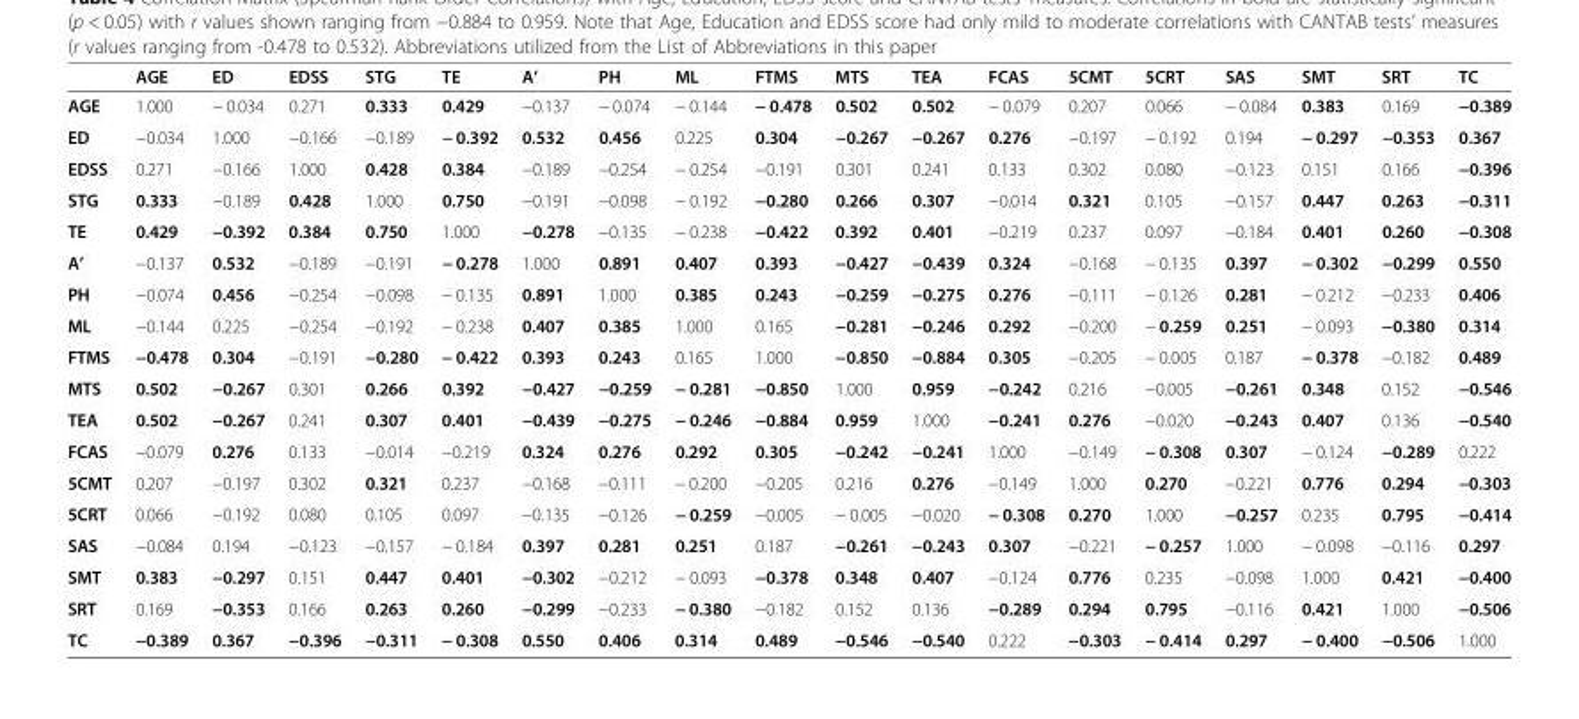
<table><thead><tr><td></td><td>AGE</td><td>ED</td><td>EDSS</td><td>STG</td><td>TE</td><td>A’</td><td>PH</td><td>ML</td><td>FTMS</td><td>MTS</td><td>TEA</td><td>FCAS</td><td>5CMT</td><td>5CRT</td><td>SAS</td><td>SMT</td><td>SRT</td><td>TC</td></tr></thead><tbody><tr><td>AGE</td><td>1.000</td><td>− 0.034</td><td>0.271</td><td>0.333</td><td>0.429</td><td>−0.137</td><td>− 0.074</td><td>− 0.144</td><td>− 0.478</td><td>0.502</td><td>0.502</td><td>− 0.079</td><td>0.207</td><td>0.066</td><td>− 0.084</td><td>0.383</td><td>0.169</td><td>−0.389</td></tr><tr><td>ED</td><td>−0.034</td><td>1.000</td><td>−0.166</td><td>−0.189</td><td>− 0.392</td><td>0.532</td><td>0.456</td><td>0.225</td><td>0.304</td><td>−0.267</td><td>−0.267</td><td>0.276</td><td>−0.197</td><td>− 0.192</td><td>0.194</td><td>− 0.297</td><td>−0.353</td><td>0.367</td></tr><tr><td>EDSS</td><td>0.271</td><td>−0.166</td><td>1.000</td><td>0.428</td><td>0.384</td><td>−0.189</td><td>−0.254</td><td>− 0.254</td><td>−0.191</td><td>0.301</td><td>0.241</td><td>0.133</td><td>0.302</td><td>0.080</td><td>−0.123</td><td>0.151</td><td>0.166</td><td>−0.396</td></tr><tr><td>STG</td><td>0.333</td><td>−0.189</td><td>0.428</td><td>1.000</td><td>0.750</td><td>−0.191</td><td>−0.098</td><td>− 0.192</td><td>−0.280</td><td>0.266</td><td>0.307</td><td>−0.014</td><td>0.321</td><td>0.105</td><td>−0.157</td><td>0.447</td><td>0.263</td><td>−0.311</td></tr><tr><td>TE</td><td>0.429</td><td>−0.392</td><td>0.384</td><td>0.750</td><td>1.000</td><td>−0.278</td><td>−0.135</td><td>− 0.238</td><td>−0.422</td><td>0.392</td><td>0.401</td><td>−0.219</td><td>0.237</td><td>0.097</td><td>−0.184</td><td>0.401</td><td>0.260</td><td>−0.308</td></tr><tr><td>A’</td><td>−0.137</td><td>0.532</td><td>−0.189</td><td>−0.191</td><td>− 0.278</td><td>1.000</td><td>0.891</td><td>0.407</td><td>0.393</td><td>−0.427</td><td>−0.439</td><td>0.324</td><td>−0.168</td><td>− 0.135</td><td>0.397</td><td>− 0.302</td><td>−0.299</td><td>0.550</td></tr><tr><td>PH</td><td>−0.074</td><td>0.456</td><td>−0.254</td><td>−0.098</td><td>− 0.135</td><td>0.891</td><td>1.000</td><td>0.385</td><td>0.243</td><td>−0.259</td><td>−0.275</td><td>0.276</td><td>−0.111</td><td>− 0.126</td><td>0.281</td><td>− 0.212</td><td>−0.233</td><td>0.406</td></tr><tr><td>ML</td><td>−0.144</td><td>0.225</td><td>−0.254</td><td>−0.192</td><td>− 0.238</td><td>0.407</td><td>0.385</td><td>1.000</td><td>0.165</td><td>−0.281</td><td>−0.246</td><td>0.292</td><td>−0.200</td><td>− 0.259</td><td>0.251</td><td>− 0.093</td><td>−0.380</td><td>0.314</td></tr><tr><td>FTMS</td><td>−0.478</td><td>0.304</td><td>−0.191</td><td>−0.280</td><td>− 0.422</td><td>0.393</td><td>0.243</td><td>0.165</td><td>1.000</td><td>−0.850</td><td>−0.884</td><td>0.305</td><td>−0.205</td><td>− 0.005</td><td>0.187</td><td>− 0.378</td><td>−0.182</td><td>0.489</td></tr><tr><td>MTS</td><td>0.502</td><td>−0.267</td><td>0.301</td><td>0.266</td><td>0.392</td><td>−0.427</td><td>−0.259</td><td>− 0.281</td><td>−0.850</td><td>1.000</td><td>0.959</td><td>−0.242</td><td>0.216</td><td>−0.005</td><td>−0.261</td><td>0.348</td><td>0.152</td><td>−0.546</td></tr><tr><td>TEA</td><td>0.502</td><td>−0.267</td><td>0.241</td><td>0.307</td><td>0.401</td><td>−0.439</td><td>−0.275</td><td>− 0.246</td><td>−0.884</td><td>0.959</td><td>1.000</td><td>−0.241</td><td>0.276</td><td>−0.020</td><td>−0.243</td><td>0.407</td><td>0.136</td><td>−0.540</td></tr><tr><td>FCAS</td><td>−0.079</td><td>0.276</td><td>0.133</td><td>−0.014</td><td>−0.219</td><td>0.324</td><td>0.276</td><td>0.292</td><td>0.305</td><td>−0.242</td><td>−0.241</td><td>1.000</td><td>−0.149</td><td>− 0.308</td><td>0.307</td><td>− 0.124</td><td>−0.289</td><td>0.222</td></tr><tr><td>5CMT</td><td>0.207</td><td>−0.197</td><td>0.302</td><td>0.321</td><td>0.237</td><td>−0.168</td><td>−0.111</td><td>− 0.200</td><td>−0.205</td><td>0.216</td><td>0.276</td><td>−0.149</td><td>1.000</td><td>0.270</td><td>−0.221</td><td>0.776</td><td>0.294</td><td>−0.303</td></tr><tr><td>5CRT</td><td>0.066</td><td>−0.192</td><td>0.080</td><td>0.105</td><td>0.097</td><td>−0.135</td><td>−0.126</td><td>− 0.259</td><td>−0.005</td><td>− 0.005</td><td>−0.020</td><td>− 0.308</td><td>0.270</td><td>1.000</td><td>−0.257</td><td>0.235</td><td>0.795</td><td>−0.414</td></tr><tr><td>SAS</td><td>−0.084</td><td>0.194</td><td>−0.123</td><td>−0.157</td><td>− 0.184</td><td>0.397</td><td>0.281</td><td>0.251</td><td>0.187</td><td>−0.261</td><td>−0.243</td><td>0.307</td><td>−0.221</td><td>− 0.257</td><td>1.000</td><td>− 0.098</td><td>−0.116</td><td>0.297</td></tr><tr><td>SMT</td><td>0.383</td><td>−0.297</td><td>0.151</td><td>0.447</td><td>0.401</td><td>−0.302</td><td>−0.212</td><td>− 0.093</td><td>−0.378</td><td>0.348</td><td>0.407</td><td>−0.124</td><td>0.776</td><td>0.235</td><td>−0.098</td><td>1.000</td><td>0.421</td><td>−0.400</td></tr><tr><td>SRT</td><td>0.169</td><td>−0.353</td><td>0.166</td><td>0.263</td><td>0.260</td><td>−0.299</td><td>−0.233</td><td>− 0.380</td><td>−0.182</td><td>0.152</td><td>0.136</td><td>−0.289</td><td>0.294</td><td>0.795</td><td>−0.116</td><td>0.421</td><td>1.000</td><td>−0.506</td></tr><tr><td>TC</td><td>−0.389</td><td>0.367</td><td>−0.396</td><td>−0.311</td><td>− 0.308</td><td>0.550</td><td>0.406</td><td>0.314</td><td>0.489</td><td>−0.546</td><td>−0.540</td><td>0.222</td><td>−0.303</td><td>− 0.414</td><td>0.297</td><td>− 0.400</td><td>−0.506</td><td>1.000</td></tr></tbody></table>